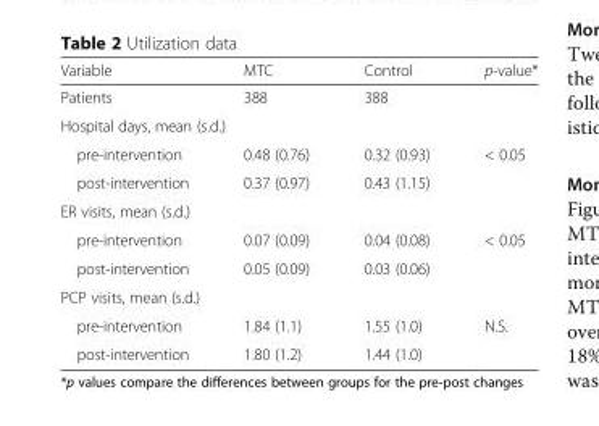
<table><thead><tr><td>Variable</td><td>MTC</td><td>Control</td><td>p-value*</td></tr></thead><tbody><tr><td>Patients</td><td>388</td><td>388</td><td></td></tr><tr><td colspan="4">Hospital days, mean (s.d.)</td></tr><tr><td>pre-intervention</td><td>0.48 (0.76)</td><td>0.32 (0.93)</td><td>&lt; 0.05</td></tr><tr><td>post-intervention</td><td>0.37 (0.97)</td><td>0.43 (1.15)</td><td></td></tr><tr><td colspan="4">ER visits, mean (s.d.)</td></tr><tr><td>pre-intervention</td><td>0.07 (0.09)</td><td>0.04 (0.08)</td><td>&lt; 0.05</td></tr><tr><td>post-intervention</td><td>0.05 (0.09)</td><td>0.03 (0.06)</td><td></td></tr><tr><td colspan="4">PCP visits, mean (s.d.)</td></tr><tr><td>pre-intervention</td><td>1.84 (1.1)</td><td>1.55 (1.0)</td><td>N.S.</td></tr><tr><td>post-intervention</td><td>1.80 (1.2)</td><td>1.44 (1.0)</td><td></td></tr></tbody></table>